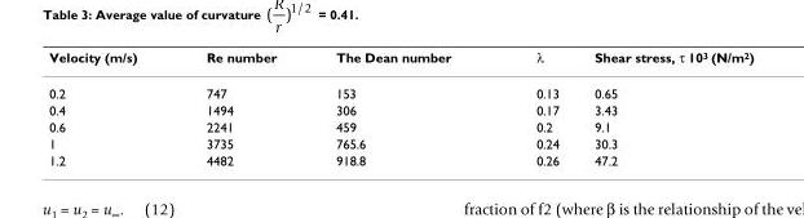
<table><thead><tr><td>Velocity (m/s)</td><td>Re number</td><td>The Dean number</td><td>λ</td><td>Shear stress, τ 10<sup>3</sup> (N/m<sup>2</sup>)</td></tr></thead><tbody><tr><td>0.2</td><td>747</td><td>153</td><td>0.13</td><td>0.65</td></tr><tr><td>0.4</td><td>1494</td><td>306</td><td>0.17</td><td>3.43</td></tr><tr><td>0.6</td><td>2241</td><td>459</td><td>0.2</td><td>9.1</td></tr><tr><td>1</td><td>3735</td><td>765.6</td><td>0.24</td><td>30.3</td></tr><tr><td>1.2</td><td>4482</td><td>918.8</td><td>0.26</td><td>47.2</td></tr></tbody></table>